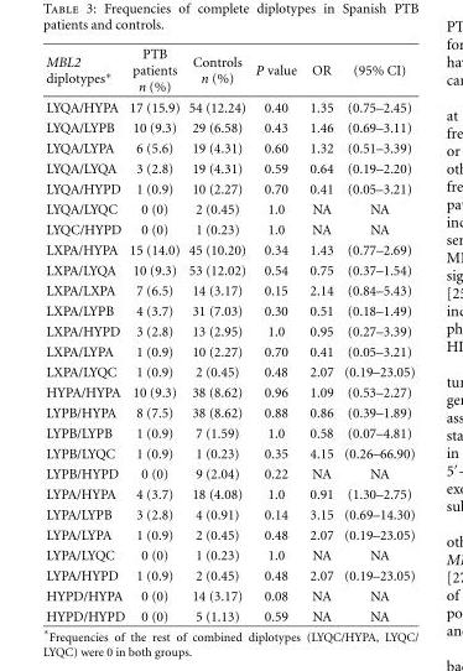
<table><thead><tr><td>MBL2 diplotypes∗</td><td>PTB patients n (%)</td><td>Controls n (%)</td><td>P value</td><td>OR</td><td>(95% CI)</td></tr></thead><tbody><tr><td>LYQA/HYPA</td><td>17 (15.9)</td><td>54 (12.24)</td><td>0.40</td><td>1.35</td><td>(0.75–2.45)</td></tr><tr><td>LYQA/LYPB</td><td>10 (9.3)</td><td>29 (6.58)</td><td>0.43</td><td>1.46</td><td>(0.69–3.11)</td></tr><tr><td>LYQA/LYPA</td><td>6 (5.6)</td><td>19 (4.31)</td><td>0.60</td><td>1.32</td><td>(0.51–3.39)</td></tr><tr><td>LYQA/LYQA</td><td>3 (2.8)</td><td>19 (4.31)</td><td>0.59</td><td>0.64</td><td>(0.19–2.20)</td></tr><tr><td>LYQA/HYPD</td><td>1 (0.9)</td><td>10 (2.27)</td><td>0.70</td><td>0.41</td><td>(0.05–3.21)</td></tr><tr><td>LYQA/LYQC</td><td>0 (0)</td><td>2 (0.45)</td><td>1.0</td><td>NA</td><td>NA</td></tr><tr><td>LYQC/HYPD</td><td>0 (0)</td><td>1 (0.23)</td><td>1.0</td><td>NA</td><td>NA</td></tr><tr><td>LXPA/HYPA</td><td>15 (14.0)</td><td>45 (10.20)</td><td>0.34</td><td>1.43</td><td>(0.77–2.69)</td></tr><tr><td>LXPA/LYQA</td><td>10 (9.3)</td><td>53 (12.02)</td><td>0.54</td><td>0.75</td><td>(0.37–1.54)</td></tr><tr><td>LXPA/LXPA</td><td>7 (6.5)</td><td>14 (3.17)</td><td>0.15</td><td>2.14</td><td>(0.84–5.43)</td></tr><tr><td>LXPA/LYPB</td><td>4 (3.7)</td><td>31 (7.03)</td><td>0.30</td><td>0.51</td><td>(0.18–1.49)</td></tr><tr><td>LXPA/HYPD</td><td>3 (2.8)</td><td>13 (2.95)</td><td>1.0</td><td>0.95</td><td>(0.27–3.39)</td></tr><tr><td>LXPA/LYPA</td><td>1 (0.9)</td><td>10 (2.27)</td><td>0.70</td><td>0.41</td><td>(0.05–3.21)</td></tr><tr><td>LXPA/LYQC</td><td>1 (0.9)</td><td>2 (0.45)</td><td>0.48</td><td>2.07</td><td>(0.19–23.05)</td></tr><tr><td>HYPA/HYPA</td><td>10 (9.3)</td><td>38 (8.62)</td><td>0.96</td><td>1.09</td><td>(0.53–2.27)</td></tr><tr><td>LYPB/HYPA</td><td>8 (7.5)</td><td>38 (8.62)</td><td>0.88</td><td>0.86</td><td>(0.39–1.89)</td></tr><tr><td>LYPB/LYPB</td><td>1 (0.9)</td><td>7 (1.59)</td><td>1.0</td><td>0.58</td><td>(0.07–4.81)</td></tr><tr><td>LYPB/LYQC</td><td>1 (0.9)</td><td>1 (0.23)</td><td>0.35</td><td>4.15</td><td>(0.26–66.90)</td></tr><tr><td>LYPB/HYPD</td><td>0 (0)</td><td>9 (2.04)</td><td>0.22</td><td>NA</td><td>NA</td></tr><tr><td>LYPA/HYPA</td><td>4 (3.7)</td><td>18 (4.08)</td><td>1.0</td><td>0.91</td><td>(1.30–2.75)</td></tr><tr><td>LYPA/LYPB</td><td>3 (2.8)</td><td>4 (0.91)</td><td>0.14</td><td>3.15</td><td>(0.69–14.30)</td></tr><tr><td>LYPA/LYPA</td><td>1 (0.9)</td><td>2 (0.45)</td><td>0.48</td><td>2.07</td><td>(0.19–23.05)</td></tr><tr><td>LYPA/LYQC</td><td>0 (0)</td><td>1 (0.23)</td><td>1.0</td><td>NA</td><td>NA</td></tr><tr><td>LYPA/HYPD</td><td>1 (0.9)</td><td>2 (0.45)</td><td>0.48</td><td>2.07</td><td>(0.19–23.05)</td></tr><tr><td>HYPD/HYPA</td><td>0 (0)</td><td>14 (3.17)</td><td>0.08</td><td>NA</td><td>NA</td></tr><tr><td>HYPD/HYPD</td><td>0 (0)</td><td>5 (1.13)</td><td>0.59</td><td>NA</td><td>NA</td></tr></tbody></table>